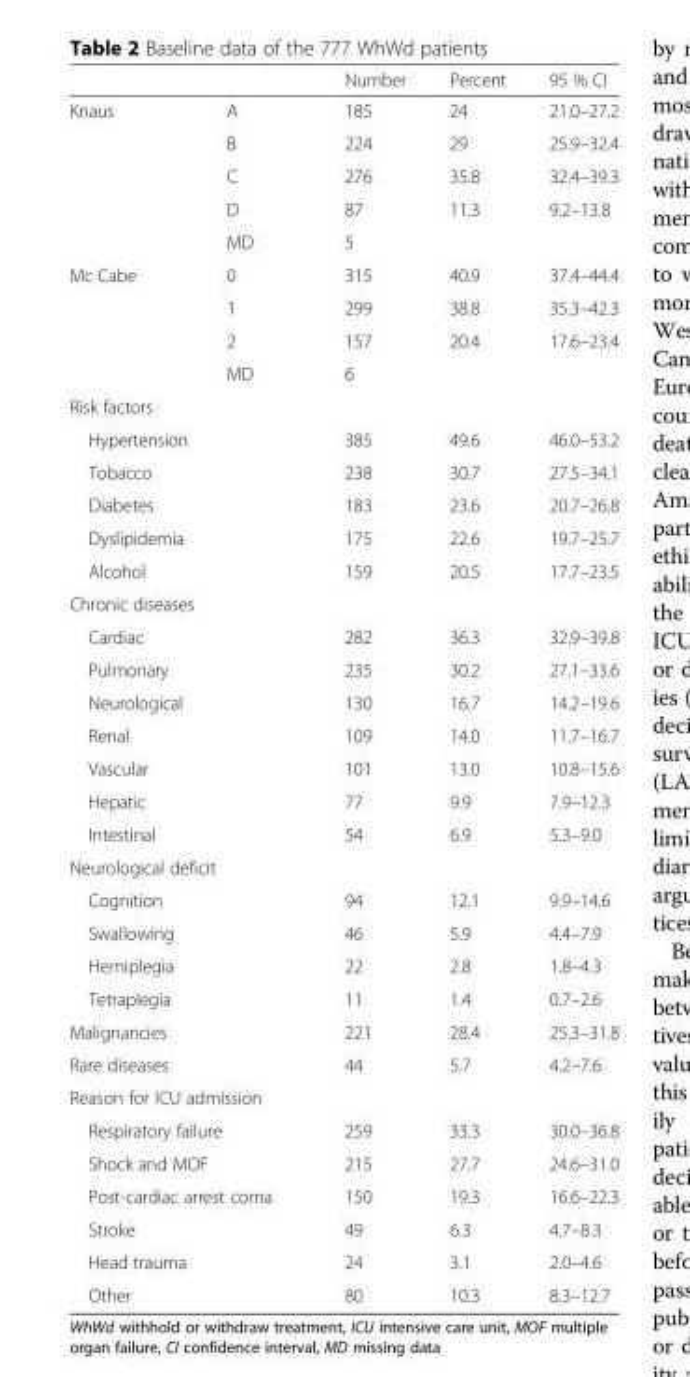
<table><thead><tr><td></td><td></td><td>Number</td><td>Percent</td><td>95 % CI</td></tr></thead><tbody><tr><td rowspan="5">Knaus</td><td>A</td><td>185</td><td>24</td><td>21.0–27.2</td></tr><tr><td>B</td><td>224</td><td>29</td><td>25.9–32.4</td></tr><tr><td>C</td><td>276</td><td>35.8</td><td>32.4–39.3</td></tr><tr><td>D</td><td>87</td><td>11.3</td><td>9.2–13.8</td></tr><tr><td>MD</td><td>5</td><td></td><td></td></tr><tr><td rowspan="4">Mc Cabe</td><td>0</td><td>315</td><td>40.9</td><td>37.4–44.4</td></tr><tr><td>1</td><td>299</td><td>38.8</td><td>35.3–42.3</td></tr><tr><td>2</td><td>157</td><td>20.4</td><td>17.6–23.4</td></tr><tr><td>MD</td><td>6</td><td></td><td></td></tr><tr><td colspan="5">Risk factors</td></tr><tr><td colspan="2">Hypertension</td><td>385</td><td>49.6</td><td>46.0–53.2</td></tr><tr><td colspan="2">Tobacco</td><td>238</td><td>30.7</td><td>27.5–34.1</td></tr><tr><td colspan="2">Diabetes</td><td>183</td><td>23.6</td><td>20.7–26.8</td></tr><tr><td colspan="2">Dyslipidemia</td><td>175</td><td>22.6</td><td>19.7–25.7</td></tr><tr><td colspan="2">Alcohol</td><td>159</td><td>20.5</td><td>17.7–23.5</td></tr><tr><td colspan="5">Chronic diseases</td></tr><tr><td colspan="2">Cardiac</td><td>282</td><td>36.3</td><td>32.9–39.8</td></tr><tr><td colspan="2">Pulmonary</td><td>235</td><td>30.2</td><td>27.1–33.6</td></tr><tr><td colspan="2">Neurological</td><td>130</td><td>16.7</td><td>14.2–19.6</td></tr><tr><td colspan="2">Renal</td><td>109</td><td>14.0</td><td>11.7–16.7</td></tr><tr><td colspan="2">Vascular</td><td>101</td><td>13.0</td><td>10.8–15.6</td></tr><tr><td colspan="2">Hepatic</td><td>77</td><td>9.9</td><td>7.9–12.3</td></tr><tr><td colspan="2">Intestinal</td><td>54</td><td>6.9</td><td>5.3–9.0</td></tr><tr><td colspan="5">Neurological deficit</td></tr><tr><td colspan="2">Cognition</td><td>94</td><td>12.1</td><td>9.9–14.6</td></tr><tr><td colspan="2">Swallowing</td><td>46</td><td>5.9</td><td>4.4–7.9</td></tr><tr><td colspan="2">Hemiplegia</td><td>22</td><td>2.8</td><td>1.8–4.3</td></tr><tr><td colspan="2">Tetraplegia</td><td>11</td><td>1.4</td><td>0.7–2.6</td></tr><tr><td colspan="2">Malignancies</td><td>221</td><td>28.4</td><td>25.3–31.8</td></tr><tr><td colspan="2">Rare diseases</td><td>44</td><td>5.7</td><td>4.2–7.6</td></tr><tr><td colspan="5">Reason for ICU admission</td></tr><tr><td colspan="2">Respiratory failure</td><td>259</td><td>33.3</td><td>30.0–36.8</td></tr><tr><td colspan="2">Shock and MOF</td><td>215</td><td>27.7</td><td>24.6–31.0</td></tr><tr><td colspan="2">Post-cardiac arrest coma</td><td>150</td><td>19.3</td><td>16.6–22.3</td></tr><tr><td colspan="2">Stroke</td><td>49</td><td>6.3</td><td>4.7–8.3</td></tr><tr><td colspan="2">Head trauma</td><td>24</td><td>3.1</td><td>2.0–4.6</td></tr><tr><td colspan="2">Other</td><td>80</td><td>10.3</td><td>8.3–12.7</td></tr></tbody></table>